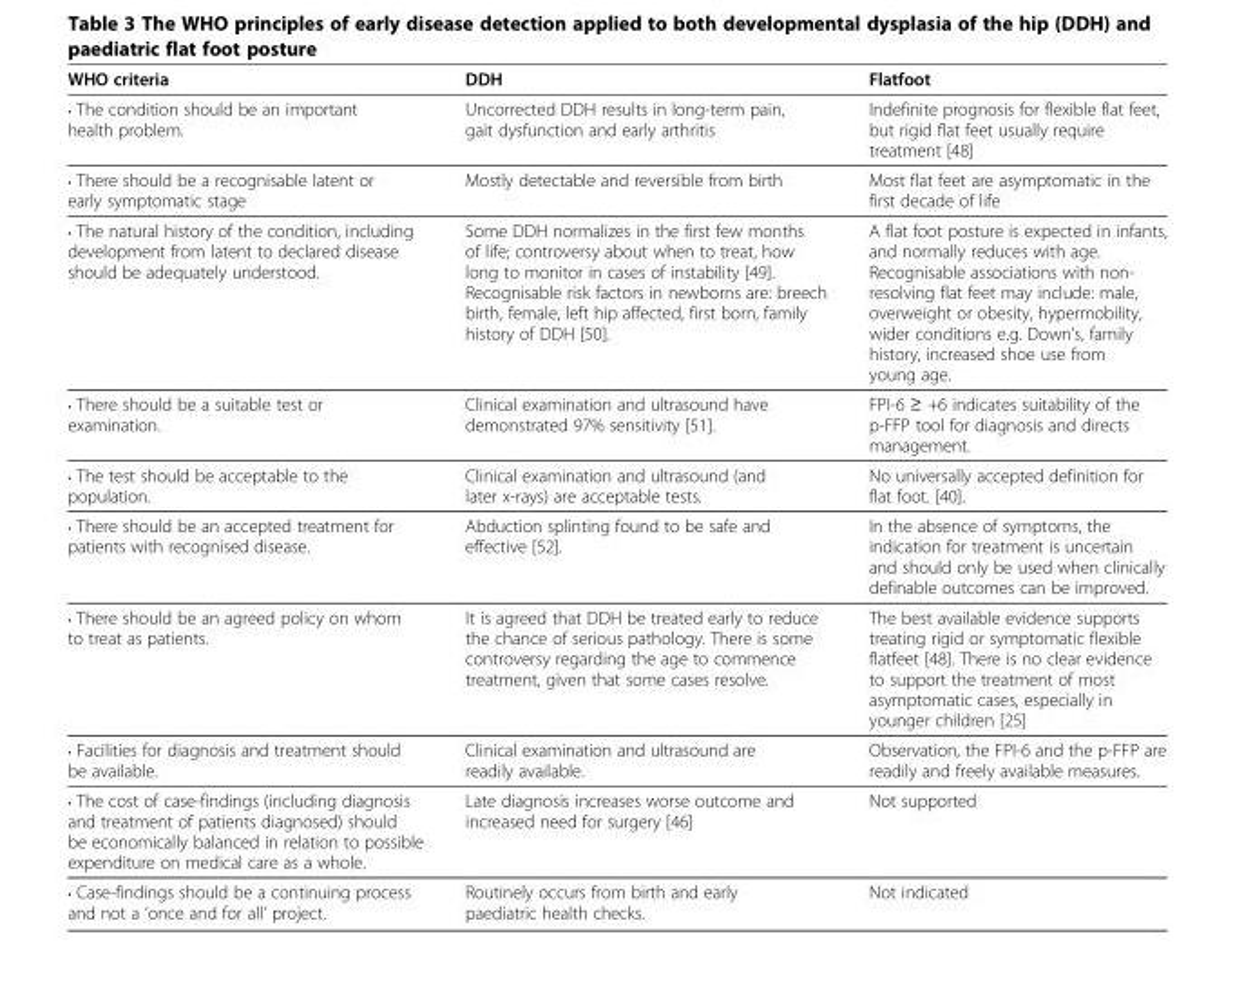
<table><thead><tr><td>WHO criteria</td><td>DDH</td><td>Flatfoot</td></tr></thead><tbody><tr><td>• The condition should be an important health problem.</td><td>Uncorrected DDH results in long-term pain, gait dysfunction and early arthritis</td><td>Indefinite prognosis for flexible flat feet, but rigid flat feet usually require treatment [48]</td></tr><tr><td>• There should be a recognisable latent or early symptomatic stage</td><td>Mostly detectable and reversible from birth</td><td>Most flat feet are asymptomatic in the first decade of life</td></tr><tr><td>• The natural history of the condition, including development from latent to declared disease should be adequately understood.</td><td>Some DDH normalizes in the first few months of life; controversy about when to treat, how long to monitor in cases of instability [49]. Recognisable risk factors in newborns are: breech birth, female, left hip affected, first born, family history of DDH [50].</td><td>A flat foot posture is expected in infants, and normally reduces with age. Recognisable associations with non- resolving flat feet may include: male, overweight or obesity, hypermobility, wider conditions e.g. Down’s, family history, increased shoe use from young age.</td></tr><tr><td>• There should be a suitable test or examination.</td><td>Clinical examination and ultrasound have demonstrated 97% sensitivity [51].</td><td>FPI-6 ≥ +6 indicates suitability of the p-FFP tool for diagnosis and directs management.</td></tr><tr><td>• The test should be acceptable to the population.</td><td>Clinical examination and ultrasound (and later x-rays) are acceptable tests.</td><td>No universally accepted definition for flat foot. [40].</td></tr><tr><td>• There should be an accepted treatment for patients with recognised disease.</td><td>Abduction splinting found to be safe and effective [52].</td><td>In the absence of symptoms, the indication for treatment is uncertain and should only be used when clinically definable outcomes can be improved.</td></tr><tr><td>• There should be an agreed policy on whom to treat as patients.</td><td>It is agreed that DDH be treated early to reduce the chance of serious pathology. There is some controversy regarding the age to commence treatment, given that some cases resolve.</td><td>The best available evidence supports treating rigid or symptomatic flexible flatfeet [48]. There is no clear evidence to support the treatment of most asymptomatic cases, especially in younger children [25]</td></tr><tr><td>• Facilities for diagnosis and treatment should be available.</td><td>Clinical examination and ultrasound are readily available.</td><td>Observation, the FPI-6 and the p-FFP are readily and freely available measures.</td></tr><tr><td>• The cost of case-findings (including diagnosis and treatment of patients diagnosed) should be economically balanced in relation to possible expenditure on medical care as a whole.</td><td>Late diagnosis increases worse outcome and increased need for surgery [46]</td><td>Not supported</td></tr><tr><td>• Case-findings should be a continuing process and not a ‘once and for all’ project.</td><td>Routinely occurs from birth and early paediatric health checks.</td><td>Not indicated</td></tr></tbody></table>